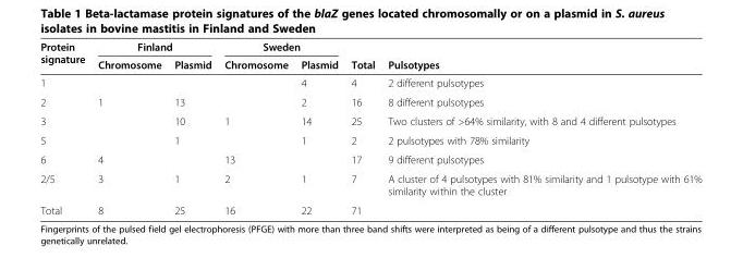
<table><thead><tr><td rowspan="2">Protein signature</td><td colspan="2">Finland</td><td colspan="2">Sweden</td><td rowspan="2">Total</td><td rowspan="2">Pulsotypes</td></tr><tr><td>Chromosome</td><td>Plasmid</td><td>Chromosome</td><td>Plasmid</td></tr></thead><tbody><tr><td>1</td><td></td><td></td><td></td><td>4</td><td>4</td><td>2 different pulsotypes</td></tr><tr><td>2</td><td>1</td><td>13</td><td></td><td>2</td><td>16</td><td>8 different pulsotypes</td></tr><tr><td>3</td><td></td><td>10</td><td>1</td><td>14</td><td>25</td><td>Two clusters of &gt;64% similarity, with 8 and 4 different pulsotypes</td></tr><tr><td>5</td><td></td><td>1</td><td></td><td>1</td><td>2</td><td>2 pulsotypes with 78% similarity</td></tr><tr><td>6</td><td>4</td><td></td><td>13</td><td></td><td>17</td><td>9 different pulsotypes</td></tr><tr><td>2/5</td><td>3</td><td>1</td><td>2</td><td>1</td><td>7</td><td>A cluster of 4 pulsotypes with 81% similarity and 1 pulsotype with 61% similarity within the cluster</td></tr><tr><td>Total</td><td>8</td><td>25</td><td>16</td><td>22</td><td>71</td><td></td></tr></tbody></table>